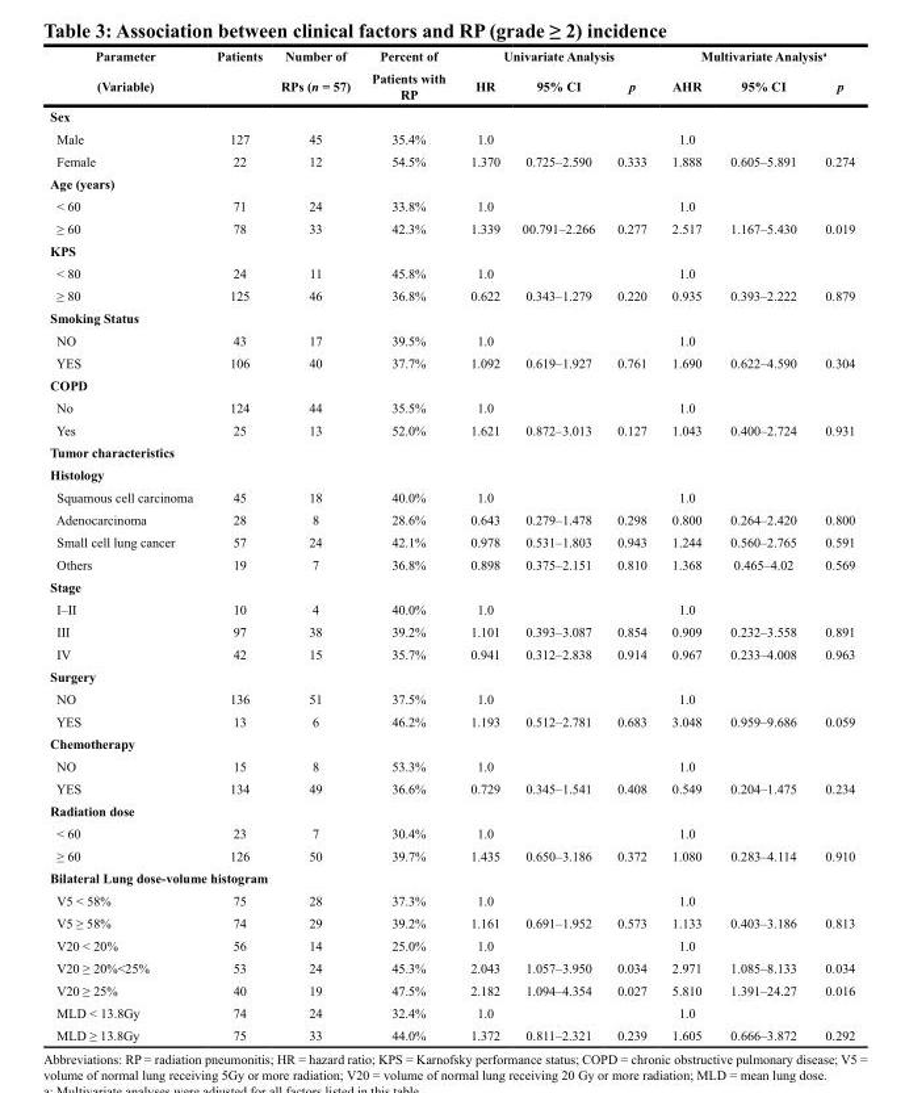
<table><thead><tr><td rowspan="2">Parameter (Variable)</td><td rowspan="2">Patients</td><td rowspan="2">Number of RPs (n = 57)</td><td rowspan="2">Percent of Patients with RP</td><td colspan="3">Univariate Analysis</td><td colspan="3">Multivariate Analysis<sup>a</sup></td></tr><tr><td>HR</td><td>95% CI</td><td>p</td><td>AHR</td><td>95% CI</td><td>p</td></tr></thead><tbody><tr><td colspan="10">Sex</td></tr><tr><td>Male</td><td>127</td><td>45</td><td>35.4%</td><td>1.0</td><td></td><td></td><td>1.0</td><td></td><td></td></tr><tr><td>Female</td><td>22</td><td>12</td><td>54.5%</td><td>1.370</td><td>0.725–2.590</td><td>0.333</td><td>1.888</td><td>0.605–5.891</td><td>0.274</td></tr><tr><td colspan="10">Age (years)</td></tr><tr><td>&lt; 60</td><td>71</td><td>24</td><td>33.8%</td><td>1.0</td><td></td><td></td><td>1.0</td><td></td><td></td></tr><tr><td>≥ 60</td><td>78</td><td>33</td><td>42.3%</td><td>1.339</td><td>00.791–2.266</td><td>0.277</td><td>2.517</td><td>1.167–5.430</td><td>0.019</td></tr><tr><td colspan="10">KPS</td></tr><tr><td>&lt; 80</td><td>24</td><td>11</td><td>45.8%</td><td>1.0</td><td></td><td></td><td>1.0</td><td></td><td></td></tr><tr><td>≥ 80</td><td>125</td><td>46</td><td>36.8%</td><td>0.622</td><td>0.343–1.279</td><td>0.220</td><td>0.935</td><td>0.393–2.222</td><td>0.879</td></tr><tr><td colspan="10">Smoking Status</td></tr><tr><td>NO</td><td>43</td><td>17</td><td>39.5%</td><td>1.0</td><td></td><td></td><td>1.0</td><td></td><td></td></tr><tr><td>YES</td><td>106</td><td>40</td><td>37.7%</td><td>1.092</td><td>0.619–1.927</td><td>0.761</td><td>1.690</td><td>0.622–4.590</td><td>0.304</td></tr><tr><td colspan="10">COPD</td></tr><tr><td>No</td><td>124</td><td>44</td><td>35.5%</td><td>1.0</td><td></td><td></td><td>1.0</td><td></td><td></td></tr><tr><td>Yes</td><td>25</td><td>13</td><td>52.0%</td><td>1.621</td><td>0.872–3.013</td><td>0.127</td><td>1.043</td><td>0.400–2.724</td><td>0.931</td></tr><tr><td colspan="10">Tumor characteristics</td></tr><tr><td colspan="10">Histology</td></tr><tr><td>Squamous cell carcinoma</td><td>45</td><td>18</td><td>40.0%</td><td>1.0</td><td></td><td></td><td>1.0</td><td></td><td></td></tr><tr><td>Adenocarcinoma</td><td>28</td><td>8</td><td>28.6%</td><td>0.643</td><td>0.279–1.478</td><td>0.298</td><td>0.800</td><td>0.264–2.420</td><td>0.800</td></tr><tr><td>Small cell lung cancer</td><td>57</td><td>24</td><td>42.1%</td><td>0.978</td><td>0.531–1.803</td><td>0.943</td><td>1.244</td><td>0.560–2.765</td><td>0.591</td></tr><tr><td>Others</td><td>19</td><td>7</td><td>36.8%</td><td>0.898</td><td>0.375–2.151</td><td>0.810</td><td>1.368</td><td>0.465–4.02</td><td>0.569</td></tr><tr><td colspan="10">Stage</td></tr><tr><td>I–II</td><td>10</td><td>4</td><td>40.0%</td><td>1.0</td><td></td><td></td><td>1.0</td><td></td><td></td></tr><tr><td>III</td><td>97</td><td>38</td><td>39.2%</td><td>1.101</td><td>0.393–3.087</td><td>0.854</td><td>0.909</td><td>0.232–3.558</td><td>0.891</td></tr><tr><td>IV</td><td>42</td><td>15</td><td>35.7%</td><td>0.941</td><td>0.312–2.838</td><td>0.914</td><td>0.967</td><td>0.233–4.008</td><td>0.963</td></tr><tr><td colspan="10">Surgery</td></tr><tr><td>NO</td><td>136</td><td>51</td><td>37.5%</td><td>1.0</td><td></td><td></td><td>1.0</td><td></td><td></td></tr><tr><td>YES</td><td>13</td><td>6</td><td>46.2%</td><td>1.193</td><td>0.512–2.781</td><td>0.683</td><td>3.048</td><td>0.959–9.686</td><td>0.059</td></tr><tr><td colspan="10">Chemotherapy</td></tr><tr><td>NO</td><td>15</td><td>8</td><td>53.3%</td><td>1.0</td><td></td><td></td><td>1.0</td><td></td><td></td></tr><tr><td>YES</td><td>134</td><td>49</td><td>36.6%</td><td>0.729</td><td>0.345–1.541</td><td>0.408</td><td>0.549</td><td>0.204–1.475</td><td>0.234</td></tr><tr><td colspan="10">Radiation dose</td></tr><tr><td>&lt; 60</td><td>23</td><td>7</td><td>30.4%</td><td>1.0</td><td></td><td></td><td>1.0</td><td></td><td></td></tr><tr><td>≥ 60</td><td>126</td><td>50</td><td>39.7%</td><td>1.435</td><td>0.650–3.186</td><td>0.372</td><td>1.080</td><td>0.283–4.114</td><td>0.910</td></tr><tr><td colspan="10">Bilateral Lung dose-volume histogram</td></tr><tr><td>V5 &lt; 58%</td><td>75</td><td>28</td><td>37.3%</td><td>1.0</td><td></td><td></td><td>1.0</td><td></td><td></td></tr><tr><td>V5 ≥ 58%</td><td>74</td><td>29</td><td>39.2%</td><td>1.161</td><td>0.691–1.952</td><td>0.573</td><td>1.133</td><td>0.403–3.186</td><td>0.813</td></tr><tr><td>V20 &lt; 20%</td><td>56</td><td>14</td><td>25.0%</td><td>1.0</td><td></td><td></td><td>1.0</td><td></td><td></td></tr><tr><td>V20 ≥ 20%&lt;25%</td><td>53</td><td>24</td><td>45.3%</td><td>2.043</td><td>1.057–3.950</td><td>0.034</td><td>2.971</td><td>1.085–8.133</td><td>0.034</td></tr><tr><td>V20 ≥ 25%</td><td>40</td><td>19</td><td>47.5%</td><td>2.182</td><td>1.094–4.354</td><td>0.027</td><td>5.810</td><td>1.391–24.27</td><td>0.016</td></tr><tr><td>MLD &lt; 13.8Gy</td><td>74</td><td>24</td><td>32.4%</td><td>1.0</td><td></td><td></td><td>1.0</td><td></td><td></td></tr><tr><td>MLD ≥ 13.8Gy</td><td>75</td><td>33</td><td>44.0%</td><td>1.372</td><td>0.811–2.321</td><td>0.239</td><td>1.605</td><td>0.666–3.872</td><td>0.292</td></tr></tbody></table>